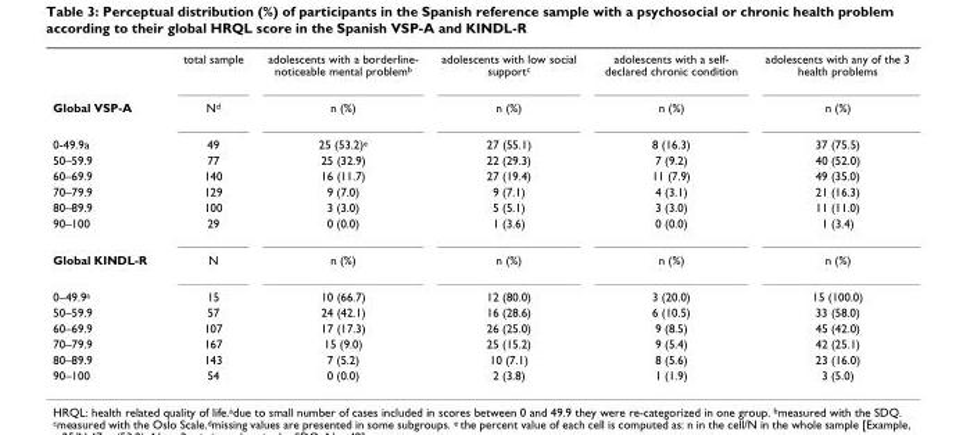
<table><thead><tr><td></td><td>total sample</td><td>adolescents with a borderline- noticeable mental problem<sup>b</sup></td><td>adolescents with low social support<sup>c</sup></td><td>adolescents with a self- declared chronic condition</td><td>adolescents with any of the 3 health problems</td></tr></thead><tbody><tr><td>Global VSP-A</td><td>N<sup>d</sup></td><td>n (%)</td><td>n (%)</td><td>n (%)</td><td>n (%)</td></tr><tr><td>0-49.9a</td><td>49</td><td>25 (53.2)<sup>e</sup></td><td>27 (55.1)</td><td>8 (16.3)</td><td>37 (75.5)</td></tr><tr><td>50–59.9</td><td>77</td><td>25 (32.9)</td><td>22 (29.3)</td><td>7 (9.2)</td><td>40 (52.0)</td></tr><tr><td>60–69.9</td><td>140</td><td>16 (11.7)</td><td>27 (19.4)</td><td>11 (7.9)</td><td>49 (35.0)</td></tr><tr><td>70–79.9</td><td>129</td><td>9 (7.0)</td><td>9 (7.1)</td><td>4 (3.1)</td><td>21 (16.3)</td></tr><tr><td>80–89.9</td><td>100</td><td>3 (3.0)</td><td>5 (5.1)</td><td>3 (3.0)</td><td>11 (11.0)</td></tr><tr><td>90–100</td><td>29</td><td>0 (0.0)</td><td>1 (3.6)</td><td>0 (0.0)</td><td>1 (3.4)</td></tr><tr><td>Global KINDL-R</td><td>N</td><td>n (%)</td><td>n (%)</td><td>n (%)</td><td>n (%)</td></tr><tr><td>0–49.9<sup>a</sup></td><td>15</td><td>10 (66.7)</td><td>12 (80.0)</td><td>3 (20.0)</td><td>15 (100.0)</td></tr><tr><td>50–59.9</td><td>57</td><td>24 (42.1)</td><td>16 (28.6)</td><td>6 (10.5)</td><td>33 (58.0)</td></tr><tr><td>60–69.9</td><td>107</td><td>17 (17.3)</td><td>26 (25.0)</td><td>9 (8.5)</td><td>45 (42.0)</td></tr><tr><td>70–79.9</td><td>167</td><td>15 (9.0)</td><td>25 (15.2)</td><td>9 (5.4)</td><td>42 (25.1)</td></tr><tr><td>80–89.9</td><td>143</td><td>7 (5.2)</td><td>10 (7.1)</td><td>8 (5.6)</td><td>23 (16.0)</td></tr><tr><td>90–100</td><td>54</td><td>0 (0.0)</td><td>2 (3.8)</td><td>1 (1.9)</td><td>3 (5.0)</td></tr></tbody></table>